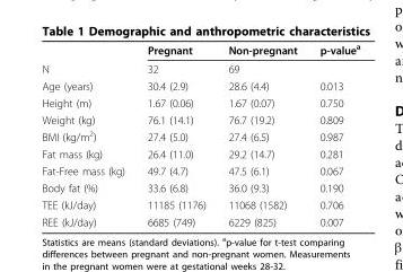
<table><thead><tr><td></td><td>Pregnant</td><td>Non-pregnant</td><td>p-value<sup>a</sup></td></tr></thead><tbody><tr><td>N</td><td>32</td><td>69</td><td></td></tr><tr><td>Age (years)</td><td>30.4 (2.9)</td><td>28.6 (4.4)</td><td>0.013</td></tr><tr><td>Height (m)</td><td>1.67 (0.06)</td><td>1.67 (0.07)</td><td>0.750</td></tr><tr><td>Weight (kg)</td><td>76.1 (14.1)</td><td>76.7 (19.2)</td><td>0.809</td></tr><tr><td>BMI (kg/m<sup>2</sup>)</td><td>27.4 (5.0)</td><td>27.4 (6.5)</td><td>0.987</td></tr><tr><td>Fat mass (kg)</td><td>26.4 (11.0)</td><td>29.2 (14.7)</td><td>0.281</td></tr><tr><td>Fat-Free mass (kg)</td><td>49.7 (4.7)</td><td>47.5 (6.1)</td><td>0.067</td></tr><tr><td>Body fat (%)</td><td>33.6 (6.8)</td><td>36.0 (9.3)</td><td>0.190</td></tr><tr><td>TEE (kJ/day)</td><td>11185 (1176)</td><td>11068 (1582)</td><td>0.706</td></tr><tr><td>REE (kJ/day)</td><td>6685 (749)</td><td>6229 (825)</td><td>0.007</td></tr></tbody></table>